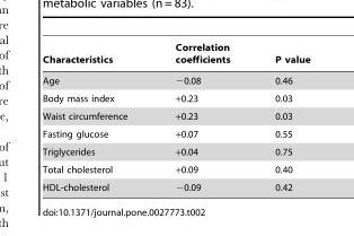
<table><thead><tr><td>Characteristics</td><td>Correlation coefficients</td><td>P value</td></tr></thead><tbody><tr><td>Age</td><td>−0.08</td><td>0.46</td></tr><tr><td>Body mass index</td><td>+0.23</td><td>0.03</td></tr><tr><td>Waist circumference</td><td>+0.23</td><td>0.03</td></tr><tr><td>Fasting glucose</td><td>+0.07</td><td>0.55</td></tr><tr><td>Triglycerides</td><td>+0.04</td><td>0.75</td></tr><tr><td>Total cholesterol</td><td>+0.09</td><td>0.40</td></tr><tr><td>HDL-cholesterol</td><td>−0.09</td><td>0.42</td></tr></tbody></table>